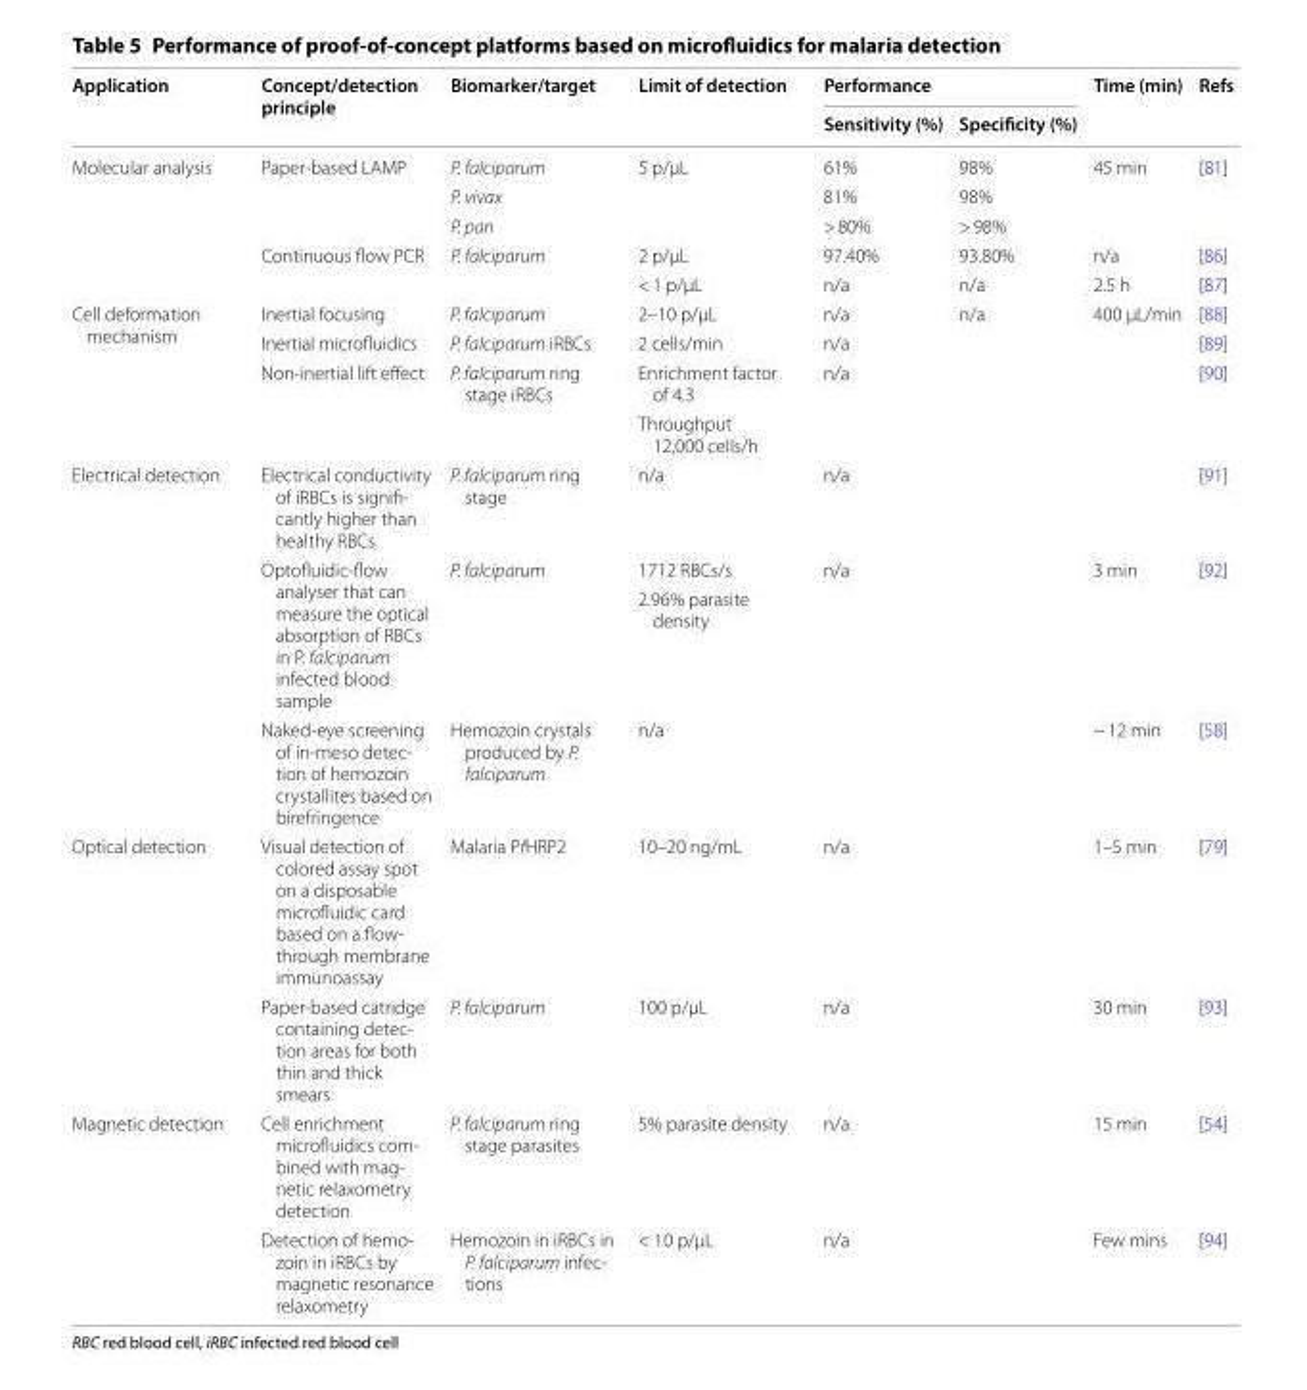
<table><thead><tr><td rowspan="2">Application</td><td rowspan="2">Concept/detection principle</td><td rowspan="2">Biomarker/target</td><td rowspan="2">Limit of detection</td><td colspan="2">Performance</td><td rowspan="2">Time (min)</td><td rowspan="2">Refs</td></tr><tr><td>Sensitivity (%)</td><td>Specificity (%)</td></tr></thead><tbody><tr><td rowspan="5">Molecular analysis</td><td rowspan="3">Paper‑based LAMP</td><td>P. falciparum</td><td rowspan="3">5 p/µL</td><td>61%</td><td>98%</td><td rowspan="3">45 min</td><td rowspan="3">[81]</td></tr><tr><td>P. vivax</td><td>81%</td><td>98%</td></tr><tr><td>P. pan</td><td>&gt; 80%</td><td>&gt; 98%</td></tr><tr><td rowspan="2">Continuous flow PCR</td><td rowspan="2">P. falciparum</td><td>2 p/µL</td><td>97.40%</td><td>93.80%</td><td>n/a</td><td>[86]</td></tr><tr><td>&lt; 1 p/µL</td><td>n/a</td><td>n/a</td><td>2.5 h</td><td>[87]</td></tr><tr><td rowspan="4">Cell deformation mechanism</td><td>Inertial focusing</td><td>P. falciparum</td><td>2–10 p/µL</td><td>n/a</td><td>n/a</td><td>400 µL/min</td><td>[88]</td></tr><tr><td>Inertial microfluidics</td><td>P. falciparum iRBCs</td><td>2 cells/min</td><td>n/a</td><td></td><td></td><td>[89]</td></tr><tr><td rowspan="2">Non‑inertial lift effect</td><td rowspan="2">P. falciparum ring stage iRBCs</td><td>Enrichment factor of 4.3</td><td rowspan="2">n/a</td><td rowspan="2"></td><td rowspan="2"></td><td rowspan="2">[90]</td></tr><tr><td>Throughput 12,000 cells/h</td></tr><tr><td rowspan="4">Electrical detection</td><td>Electrical conductivity of iRBCs is signifi‑ cantly higher than healthy RBCs</td><td>P. falciparum ring stage</td><td>n/a</td><td>n/a</td><td></td><td></td><td>[91]</td></tr><tr><td rowspan="2">Optofluidic‑flow analyser that can measure the optical absorption of RBCs in P. falciparum infected blood sample</td><td rowspan="2">P. falciparum</td><td>1712 RBCs/s</td><td rowspan="2">n/a</td><td rowspan="2"></td><td rowspan="2">3 min</td><td rowspan="2">[92]</td></tr><tr><td>2.96% parasite density</td></tr><tr><td>Naked‑eye screening of in‑meso detec‑ tion of hemozoin crystallites based on birefringence</td><td>Hemozoin crystals produced by P. falciparum</td><td>n/a</td><td></td><td></td><td>~ 12 min</td><td>[58]</td></tr><tr><td rowspan="2">Optical detection</td><td>Visual detection of colored assay spot on a disposable microfluidic card based on a flow‑ through membrane immunoassay</td><td>Malaria PfHRP2</td><td>10–20 ng/mL</td><td>n/a</td><td></td><td>1–5 min</td><td>[79]</td></tr><tr><td>Paper‑based catridge containing detec‑ tion areas for both thin and thick smears</td><td>P. falciparum</td><td>100 p/µL</td><td>n/a</td><td></td><td>30 min</td><td>[93]</td></tr><tr><td rowspan="2">Magnetic detection</td><td>Cell enrichment microfluidics com‑ bined with mag‑ netic relaxometry detection</td><td>P. falciparum ring stage parasites</td><td>5% parasite density</td><td>n/a</td><td></td><td>15 min</td><td>[54]</td></tr><tr><td>Detection of hemo‑ zoin in iRBCs by magnetic resonance relaxometry</td><td>Hemozoin in iRBCs in P. falciparum infec‑ tions</td><td>&lt; 10 p/µL</td><td>n/a</td><td></td><td>Few mins</td><td>[94]</td></tr></tbody></table>